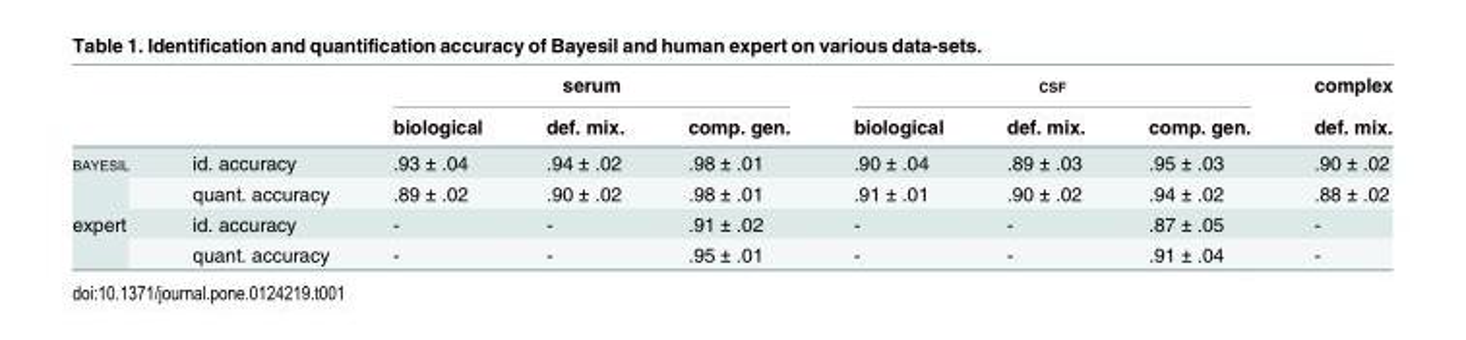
<table><thead><tr><td rowspan="2"></td><td rowspan="2"></td><td colspan="3">serum</td><td colspan="3">CSF</td><td rowspan="2">complex def. mix.</td></tr><tr><td>biological</td><td>def. mix.</td><td>comp. gen.</td><td>biological</td><td>def. mix.</td><td>comp. gen.</td></tr></thead><tbody><tr><td rowspan="2">BAYESIL</td><td>id. accuracy</td><td>.93 ± .04</td><td>.94 ± .02</td><td>.98 ± .01</td><td>.90 ± .04</td><td>.89 ± .03</td><td>.95 ± .03</td><td>.90 ± .02</td></tr><tr><td>quant. accuracy</td><td>.89 ± .02</td><td>.90 ± .02</td><td>.98 ± .01</td><td>.91 ± .01</td><td>.90 ± .02</td><td>.94 ± .02</td><td>.88 ± .02</td></tr><tr><td rowspan="2">expert</td><td>id. accuracy</td><td>-</td><td>-</td><td>.91 ± .02</td><td>-</td><td>-</td><td>.87 ± .05</td><td>-</td></tr><tr><td>quant. accuracy</td><td>-</td><td>-</td><td>.95 ± .01</td><td>-</td><td>-</td><td>.91 ± .04</td><td>-</td></tr></tbody></table>